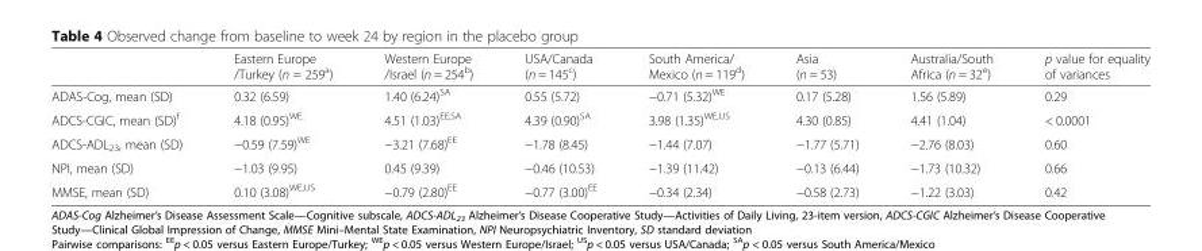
<table><thead><tr><td></td><td>Eastern Europe /Turkey (n = 259<sup>a</sup>)</td><td>Western Europe /Israel (n = 254<sup>b</sup>)</td><td>USA/Canada (n = 145<sup>c</sup>)</td><td>South America/ Mexico (n = 119<sup>d</sup>)</td><td>Asia (n = 53)</td><td>Australia/South Africa (n = 32<sup>e</sup>)</td><td>p value for equality of variances</td></tr></thead><tbody><tr><td>ADAS-Cog, mean (SD)</td><td>0.32 (6.59)</td><td>1.40 (6.24)<sup>SA</sup></td><td>0.55 (5.72)</td><td>−0.71 (5.32)<sup>WE</sup></td><td>0.17 (5.28)</td><td>1.56 (5.89)</td><td>0.29</td></tr><tr><td>ADCS-CGIC, mean (SD)<sup>f</sup></td><td>4.18 (0.95)<sup>WE</sup></td><td>4.51 (1.03)<sup>EE,SA</sup></td><td>4.39 (0.90)<sup>SA</sup></td><td>3.98 (1.35)<sup>WE,US</sup></td><td>4.30 (0.85)</td><td>4.41 (1.04)</td><td>&lt; 0.0001</td></tr><tr><td>ADCS-ADL<sub>23</sub>, mean (SD)</td><td>−0.59 (7.59)<sup>WE</sup></td><td>−3.21 (7.68)<sup>EE</sup></td><td>−1.78 (8.45)</td><td>−1.44 (7.07)</td><td>−1.77 (5.71)</td><td>−2.76 (8.03)</td><td>0.60</td></tr><tr><td>NPI, mean (SD)</td><td>−1.03 (9.95)</td><td>0.45 (9.39)</td><td>−0.46 (10.53)</td><td>−1.39 (11.42)</td><td>−0.13 (6.44)</td><td>−1.73 (10.32)</td><td>0.66</td></tr><tr><td>MMSE, mean (SD)</td><td>0.10 (3.08)<sup>WE,US</sup></td><td>−0.79 (2.80)<sup>EE</sup></td><td>−0.77 (3.00)<sup>EE</sup></td><td>−0.34 (2.34)</td><td>−0.58 (2.73)</td><td>−1.22 (3.03)</td><td>0.42</td></tr></tbody></table>